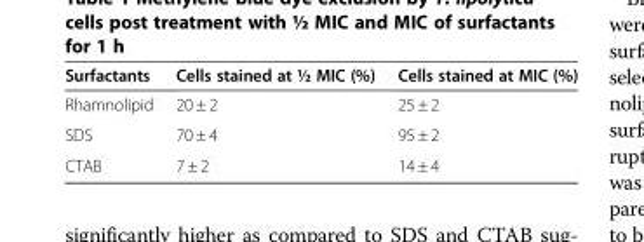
<table><thead><tr><td>Surfactants</td><td>Cells stained at ½ MIC (%)</td><td>Cells stained at MIC (%)</td></tr></thead><tbody><tr><td>Rhamnolipid</td><td>20 ± 2</td><td>25 ± 2</td></tr><tr><td>SDS</td><td>70 ± 4</td><td>95 ± 2</td></tr><tr><td>CTAB</td><td>7 ± 2</td><td>14 ± 4</td></tr></tbody></table>